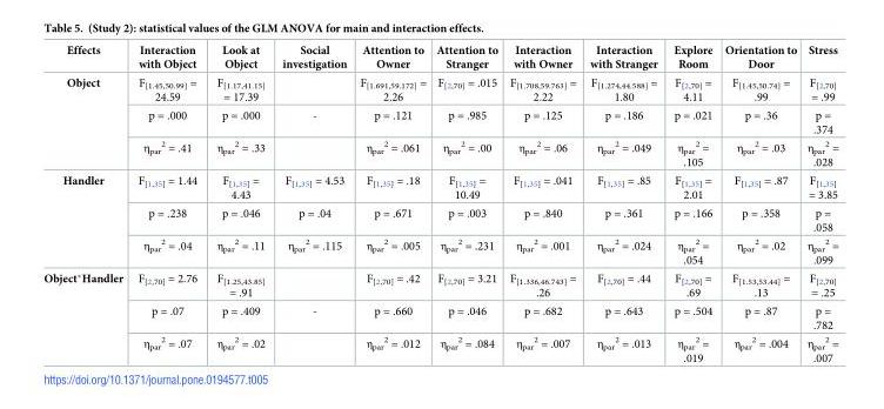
<table><thead><tr><td>Effects</td><td>Interaction with Object</td><td>Look at Object</td><td>Social investigation</td><td>Attention to Owner</td><td>Attention to Stranger</td><td>Interaction with Owner</td><td>Interaction with Stranger</td><td>Explore Room</td><td>Orientation to Door</td><td>Stress</td></tr></thead><tbody><tr><td rowspan="3">Object</td><td>F<sub>[1.45,50.99]</sub> = 24.59</td><td>F<sub>[1.17,41.15]</sub> = 17.39</td><td></td><td>F<sub>[1.691,59.172]</sub> = 2.26</td><td>F<sub>[2,70]</sub> = .015</td><td>F<sub>[1.708,59.763]</sub> = 2.22</td><td>F<sub>[1.274,44.588]</sub> = 1.80</td><td>F<sub>[2,70]</sub> = 4.11</td><td>F<sub>[1.45,50.74]</sub> = .99</td><td>F<sub>[2,70]</sub> = .99</td></tr><tr><td>p = .000</td><td>p = .000</td><td>-</td><td>p = .121</td><td>p = .985</td><td>p = .125</td><td>p = .186</td><td>p = .021</td><td>p = .36</td><td>p = .374</td></tr><tr><td>η<sub>par</sub> <sup>2</sup> = .41</td><td>η<sub>par</sub> <sup>2</sup> = .33</td><td></td><td>η<sub>par</sub> <sup>2</sup> = .061</td><td>η<sub>par</sub> <sup>2</sup> = .00</td><td>η<sub>par</sub> <sup>2</sup> = .06</td><td>η<sub>par</sub> <sup>2</sup> = .049</td><td>η<sub>par</sub> <sup>2</sup> = .105</td><td>η<sub>par</sub> <sup>2</sup> = .03</td><td>η<sub>par</sub> <sup>2</sup> = .028</td></tr><tr><td rowspan="3">Handler</td><td>F<sub>[1,35]</sub> = 1.44</td><td>F<sub>[1,35]</sub> = 4.43</td><td>F<sub>[1,35]</sub> = 4.53</td><td>F<sub>[1,35]</sub> = .18</td><td>F<sub>[1,35]</sub> = 10.49</td><td>F<sub>[1,35]</sub> = .041</td><td>F<sub>[1,35]</sub> = .85</td><td>F<sub>[1,35]</sub> = 2.01</td><td>F<sub>[1,35]</sub> = .87</td><td>F<sub>[1,35]</sub> = 3.85</td></tr><tr><td>p = .238</td><td>p = .046</td><td>p = .04</td><td>p = .671</td><td>p = .003</td><td>p = .840</td><td>p = .361</td><td>p = .166</td><td>p = .358</td><td>p = .058</td></tr><tr><td>η<sub>par</sub> <sup>2</sup> = .04</td><td>η<sub>par</sub> <sup>2</sup> = .11</td><td>η<sub>par</sub> <sup>2</sup> = .115</td><td>η<sub>par</sub> <sup>2</sup> = .005</td><td>η<sub>par</sub> <sup>2</sup> = .231</td><td>η<sub>par</sub> <sup>2</sup> = .001</td><td>η<sub>par</sub> <sup>2</sup> = .024</td><td>η<sub>par</sub> <sup>2</sup> = .054</td><td>η<sub>par</sub> <sup>2</sup> = .02</td><td>η<sub>par</sub> <sup>2</sup> = .099</td></tr><tr><td rowspan="3">Object*Handler</td><td>F<sub>[2,70]</sub> = 2.76</td><td>F<sub>[1.25,43.85]</sub> = .91</td><td></td><td>F<sub>[2,70]</sub> = .42</td><td>F<sub>[2,70]</sub> = 3.21</td><td>F<sub>[1.336,46.743]</sub> = .26</td><td>F<sub>[2,70]</sub> = .44</td><td>F<sub>[2,70]</sub> = .69</td><td>F<sub>[1.53,53.44]</sub> = .13</td><td>F<sub>[2,70]</sub> = .25</td></tr><tr><td>p = .07</td><td>p = .409</td><td>-</td><td>p = .660</td><td>p = .046</td><td>p = .682</td><td>p = .643</td><td>p = .504</td><td>p = .87</td><td>p = .782</td></tr><tr><td>η<sub>par</sub> <sup>2</sup> = .07</td><td>η<sub>par</sub> <sup>2</sup> = .02</td><td></td><td>η<sub>par</sub> <sup>2</sup> = .012</td><td>η<sub>par</sub> <sup>2</sup> = .084</td><td>η<sub>par</sub> <sup>2</sup> = .007</td><td>η<sub>par</sub> <sup>2</sup> = .013</td><td>η<sub>par</sub> <sup>2</sup> = .019</td><td>η<sub>par</sub> <sup>2</sup> = .004</td><td>η<sub>par</sub> <sup>2</sup> = .007</td></tr></tbody></table>